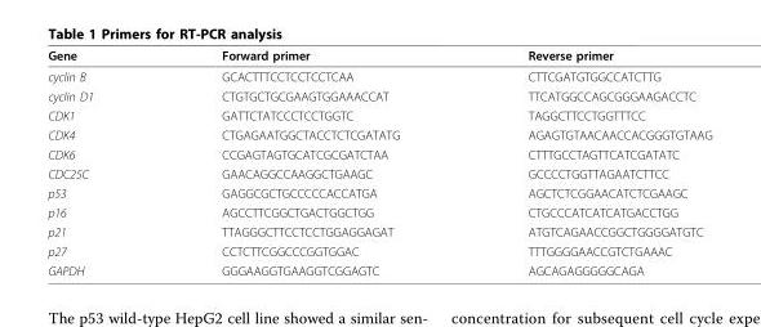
<table><thead><tr><td>Gene</td><td>Forward primer</td><td>Reverse primer</td></tr></thead><tbody><tr><td>cyclin B</td><td>GCACTTTCCTCCTCCTCAA</td><td>CTTCGATGTGGCCATCTTG</td></tr><tr><td>cyclin D1</td><td>CTGTGCTGCGAAGTGGAAACCAT</td><td>TTCATGGCCAGCGGGAAGACCTC</td></tr><tr><td>CDK1</td><td>GATTCTATCCCTCCTGGTC</td><td>TAGGCTTCCTGGTTTCC</td></tr><tr><td>CDK4</td><td>CTGAGAATGGCTACCTCTCGATATG</td><td>AGAGTGTAACAACCACGGGTGTAAG</td></tr><tr><td>CDK6</td><td>CCGAGTAGTGCATCGCGATCTAA</td><td>CTTTGCCTAGTTCATCGATATC</td></tr><tr><td>CDC25C</td><td>GAACAGGCCAAGGCTGAAGC</td><td>GCCCCTGGTTAGAATCTTCC</td></tr><tr><td>p53</td><td>GAGGCGCTGCCCCCACCATGA</td><td>AGCTCTCGGAACATCTCGAAGC</td></tr><tr><td>p16</td><td>AGCCTTCGGCTGACTGGCTGG</td><td>CTGCCCATCATCATGACCTGG</td></tr><tr><td>p21</td><td>TTAGGGCTTCCTCCTGGAGGAGAT</td><td>ATGTCAGAACCGGCTGGGGATGTC</td></tr><tr><td>p27</td><td>CCTCTTCGGCCCGGTGGAC</td><td>TTTGGGGAACCGTCTGAAAC</td></tr><tr><td>GAPDH</td><td>GGGAAGGTGAAGGTCGGAGTC</td><td>AGCAGAGGGGGCAGA</td></tr></tbody></table>